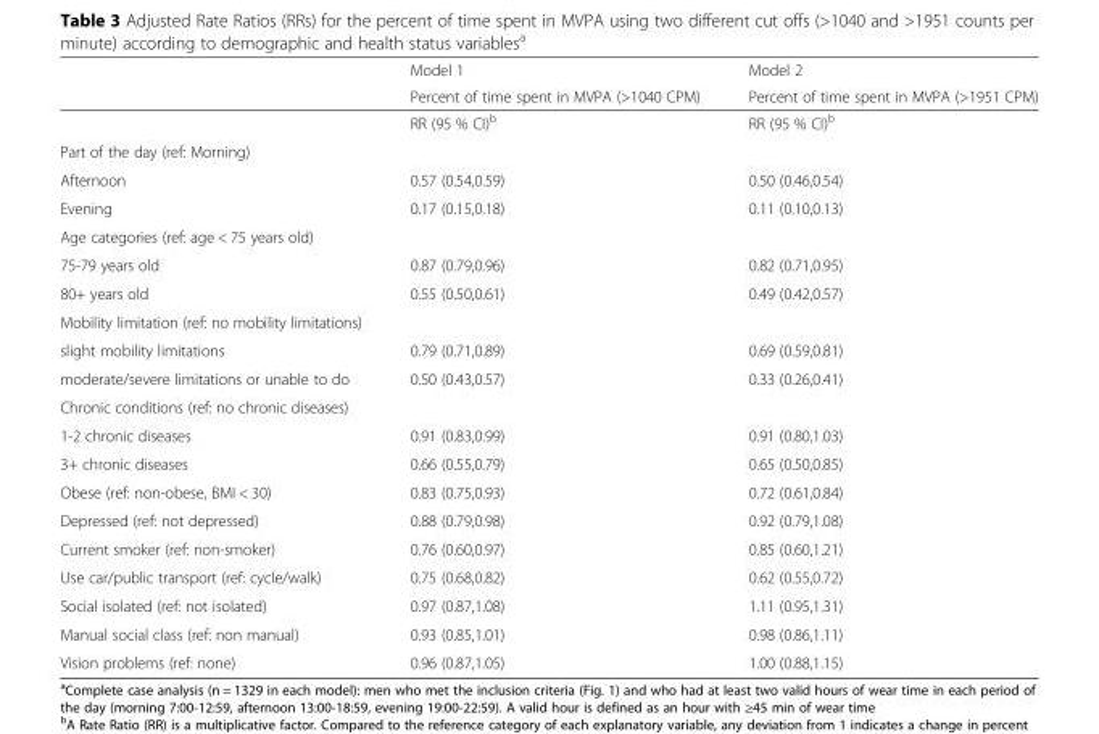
<table><thead><tr><td rowspan="2"></td><td rowspan="2">Model 1 Percent of time spent in MVPA (&gt;1040 CPM)</td><td rowspan="2">Model 2 Percent of time spent in MVPA (&gt;1951 CPM)</td></tr><tr></tr></thead><tbody><tr><td></td><td>RR (95 % CI)<sup>b</sup></td><td>RR (95 % CI)<sup>b</sup></td></tr><tr><td colspan="3">Part of the day (ref: Morning)</td></tr><tr><td>Afternoon</td><td>0.57 (0.54,0.59)</td><td>0.50 (0.46,0.54)</td></tr><tr><td>Evening</td><td>0.17 (0.15,0.18)</td><td>0.11 (0.10,0.13)</td></tr><tr><td colspan="3">Age categories (ref: age &lt; 75 years old)</td></tr><tr><td>75-79 years old</td><td>0.87 (0.79,0.96)</td><td>0.82 (0.71,0.95)</td></tr><tr><td>80+ years old</td><td>0.55 (0.50,0.61)</td><td>0.49 (0.42,0.57)</td></tr><tr><td colspan="3">Mobility limitation (ref: no mobility limitations)</td></tr><tr><td>slight mobility limitations</td><td>0.79 (0.71,0.89)</td><td>0.69 (0.59,0.81)</td></tr><tr><td>moderate/severe limitations or unable to do</td><td>0.50 (0.43,0.57)</td><td>0.33 (0.26,0.41)</td></tr><tr><td colspan="3">Chronic conditions (ref: no chronic diseases)</td></tr><tr><td>1-2 chronic diseases</td><td>0.91 (0.83,0.99)</td><td>0.91 (0.80,1.03)</td></tr><tr><td>3+ chronic diseases</td><td>0.66 (0.55,0.79)</td><td>0.65 (0.50,0.85)</td></tr><tr><td>Obese (ref: non-obese, BMI &lt; 30)</td><td>0.83 (0.75,0.93)</td><td>0.72 (0.61,0.84)</td></tr><tr><td>Depressed (ref: not depressed)</td><td>0.88 (0.79,0.98)</td><td>0.92 (0.79,1.08)</td></tr><tr><td>Current smoker (ref: non-smoker)</td><td>0.76 (0.60,0.97)</td><td>0.85 (0.60,1.21)</td></tr><tr><td>Use car/public transport (ref: cycle/walk)</td><td>0.75 (0.68,0.82)</td><td>0.62 (0.55,0.72)</td></tr><tr><td>Social isolated (ref: not isolated)</td><td>0.97 (0.87,1.08)</td><td>1.11 (0.95,1.31)</td></tr><tr><td>Manual social class (ref: non manual)</td><td>0.93 (0.85,1.01)</td><td>0.98 (0.86,1.11)</td></tr><tr><td>Vision problems (ref: none)</td><td>0.96 (0.87,1.05)</td><td>1.00 (0.88,1.15)</td></tr></tbody></table>